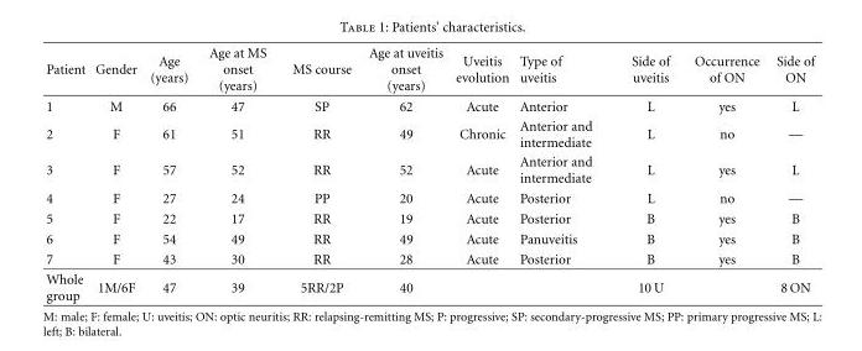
<table><thead><tr><td>Patient</td><td>Gender</td><td>Age (years)</td><td>Age at MS onset (years)</td><td>MS course</td><td>Age at uveitis onset (years)</td><td>Uveitis evolution</td><td>Type of uveitis</td><td>Side of uveitis</td><td>Occurrence of ON</td><td>Side of ON</td></tr></thead><tbody><tr><td>1</td><td>M</td><td>66</td><td>47</td><td>SP</td><td>62</td><td>Acute</td><td>Anterior</td><td>L</td><td>yes</td><td>L</td></tr><tr><td>2</td><td>F</td><td>61</td><td>51</td><td>RR</td><td>49</td><td>Chronic</td><td>Anterior and intermediate</td><td>L</td><td>no</td><td>—</td></tr><tr><td>3</td><td>F</td><td>57</td><td>52</td><td>RR</td><td>52</td><td>Acute</td><td>Anterior and intermediate</td><td>L</td><td>yes</td><td>L</td></tr><tr><td>4</td><td>F</td><td>27</td><td>24</td><td>PP</td><td>20</td><td>Acute</td><td>Posterior</td><td>L</td><td>no</td><td>—</td></tr><tr><td>5</td><td>F</td><td>22</td><td>17</td><td>RR</td><td>19</td><td>Acute</td><td>Posterior</td><td>B</td><td>yes</td><td>B</td></tr><tr><td>6</td><td>F</td><td>54</td><td>49</td><td>RR</td><td>49</td><td>Acute</td><td>Panuveitis</td><td>B</td><td>yes</td><td>B</td></tr><tr><td>7</td><td>F</td><td>43</td><td>30</td><td>RR</td><td>28</td><td>Acute</td><td>Posterior</td><td>B</td><td>yes</td><td>B</td></tr><tr><td>Whole group</td><td>1M/6F</td><td>47</td><td>39</td><td>5RR/2P</td><td>40</td><td></td><td></td><td>10 U</td><td></td><td>8 ON</td></tr></tbody></table>